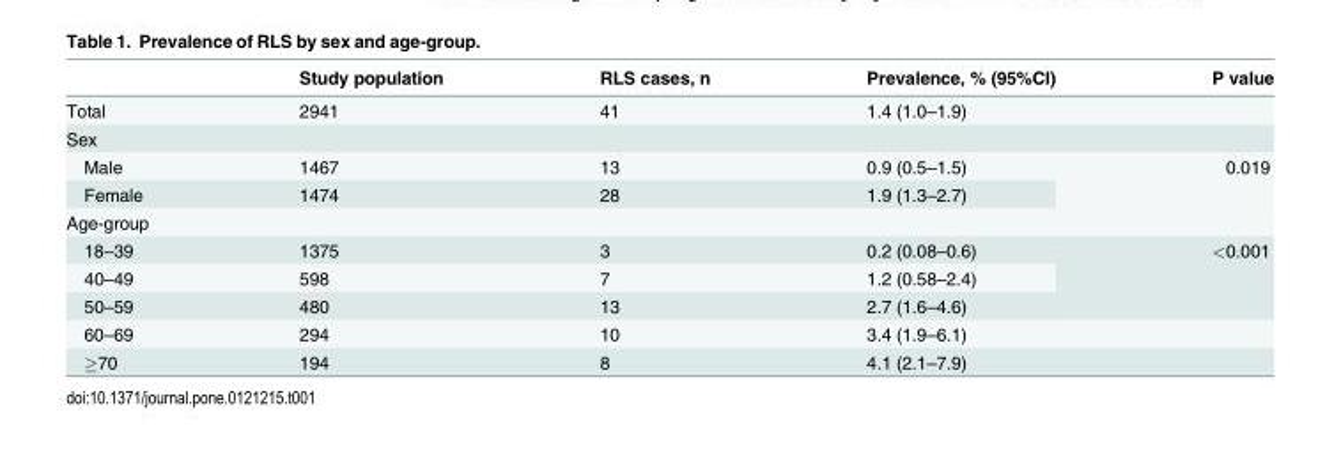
<table><thead><tr><td></td><td>Study population</td><td>RLS cases, n</td><td>Prevalence, % (95%CI)</td><td>P value</td></tr></thead><tbody><tr><td>Total</td><td>2941</td><td>41</td><td>1.4 (1.0–1.9)</td><td></td></tr><tr><td colspan="5">Sex</td></tr><tr><td>Male</td><td>1467</td><td>13</td><td>0.9 (0.5–1.5)</td><td rowspan="2">0.019</td></tr><tr><td>Female</td><td>1474</td><td>28</td><td>1.9 (1.3–2.7)</td></tr><tr><td colspan="5">Age-group</td></tr><tr><td>18–39</td><td>1375</td><td>3</td><td>0.2 (0.08–0.6)</td><td rowspan="3">&lt;0.001</td></tr><tr><td>40–49</td><td>598</td><td>7</td><td>1.2 (0.58–2.4)</td></tr><tr><td>50–59</td><td>480</td><td>13</td><td>2.7 (1.6–4.6)</td></tr><tr><td>60–69</td><td>294</td><td>10</td><td>3.4 (1.9–6.1)</td><td></td></tr><tr><td>≥70</td><td>194</td><td>8</td><td>4.1 (2.1–7.9)</td><td></td></tr></tbody></table>